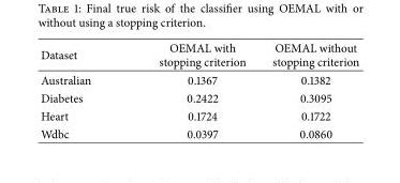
<table><thead><tr><td>Dataset</td><td>OEMAL with stopping criterion</td><td>OEMAL without stopping criterion</td></tr></thead><tbody><tr><td>Australian</td><td>0.1367</td><td>0.1382</td></tr><tr><td>Diabetes</td><td>0.2422</td><td>0.3095</td></tr><tr><td>Heart</td><td>0.1724</td><td>0.1722</td></tr><tr><td>Wdbc</td><td>0.0397</td><td>0.0860</td></tr></tbody></table>